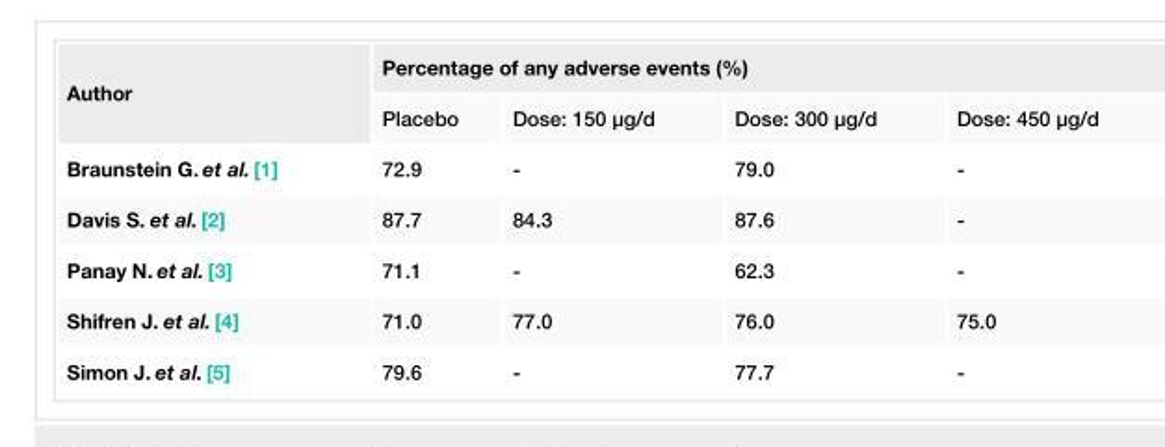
<table><tbody><tr><td rowspan="2">Author</td><td colspan="4">Percentage of any adverse events (%)</td></tr><tr><td>Placebo</td><td>Dose: 150 µg/d</td><td>Dose: 300 µg/d</td><td>Dose: 450 µg/d</td></tr><tr><td>Braunstein G. et al. [1]</td><td>72.9</td><td>-</td><td>79.0</td><td>-</td></tr><tr><td>Davis S. et al. [2]</td><td>87.7</td><td>84.3</td><td>87.6</td><td>-</td></tr><tr><td>Panay N. et al. [3]</td><td>71.1</td><td>-</td><td>62.3</td><td>-</td></tr><tr><td>Shifren J. et al. [4]</td><td>71.0</td><td>77.0</td><td>76.0</td><td>75.0</td></tr><tr><td>Simon J. et al. [5]</td><td>79.6</td><td>-</td><td>77.7</td><td>-</td></tr></tbody></table>